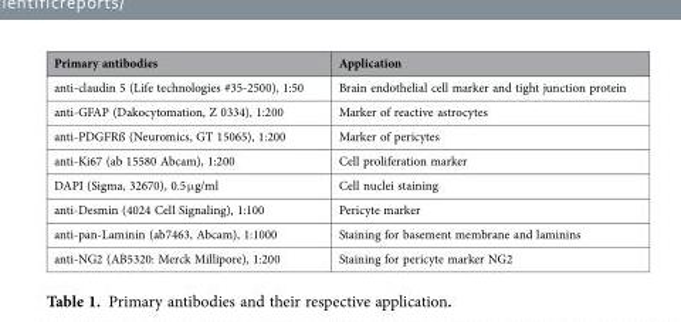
<table><thead><tr><td>Primary antibodies</td><td>Application</td></tr></thead><tbody><tr><td>anti-claudin 5 (Life technologies #35-2500), 1:50</td><td>Brain endothelial cell marker and tight junction protein</td></tr><tr><td>anti-GFAP (Dakocytomation, Z 0334), 1:200</td><td>Marker of reactive astrocytes</td></tr><tr><td>anti-PDGFRß (Neuromics, GT 15065), 1:200</td><td>Marker of pericytes</td></tr><tr><td>anti-Ki67 (ab 15580 Abcam), 1:200</td><td>Cell proliferation marker</td></tr><tr><td>DAPI (Sigma, 32670), 0.5 μ g/ml</td><td>Cell nuclei staining</td></tr><tr><td>anti-Desmin (4024 Cell Signaling), 1:100</td><td>Pericyte marker</td></tr><tr><td>anti-pan-Laminin (ab7463, Abcam), 1:1000</td><td>Staining for basement membrane and laminins</td></tr><tr><td>anti-NG2 (AB5320: Merck Millipore), 1:200</td><td>Staining for pericyte marker NG2</td></tr></tbody></table>